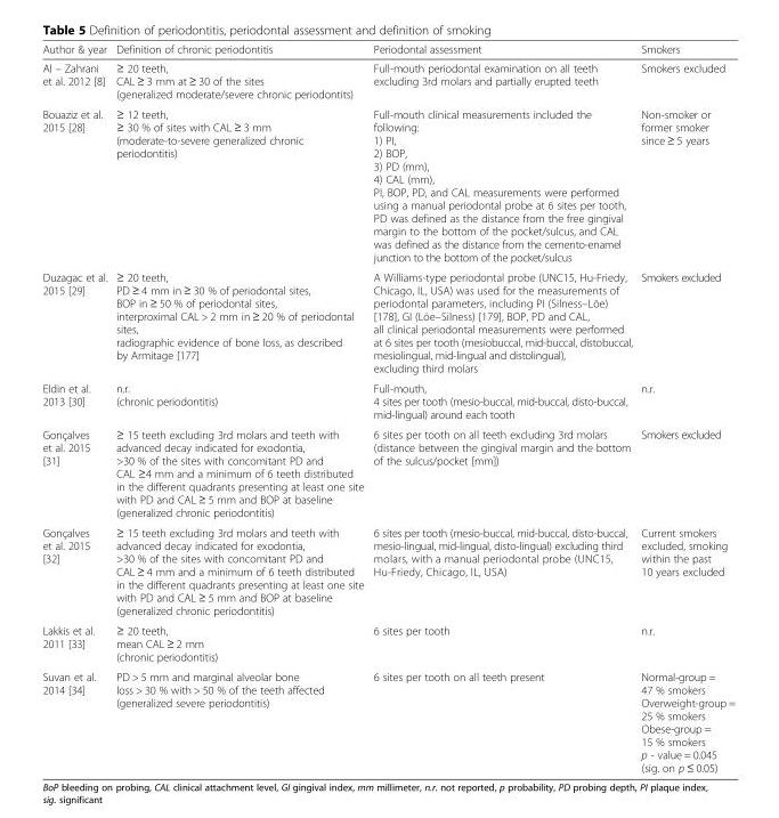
<table><thead><tr><td>Author &amp; year</td><td>Definition of chronic periodontitis</td><td>Periodontal assessment</td><td>Smokers</td></tr></thead><tbody><tr><td>Al – Zahrani et al. 2012 [8]</td><td>≥ 20 teeth, CAL ≥ 3 mm at ≥ 30 of the sites (generalized moderate/severe chronic periodontits)</td><td>Full-mouth periodontal examination on all teeth excluding 3rd molars and partially erupted teeth</td><td>Smokers excluded</td></tr><tr><td>Bouaziz et al. 2015 [28]</td><td>≥ 12 teeth, ≥ 30 % of sites with CAL ≥ 3 mm (moderate-to-severe generalized chronic periodontitis)</td><td>Full-mouth clinical measurements included the following: 1) PI, 2) BOP, 3) PD (mm), 4) CAL (mm), PI, BOP, PD, and CAL measurements were performed using a manual periodontal probe at 6 sites per tooth, PD was defined as the distance from the free gingival margin to the bottom of the pocket/sulcus, and CAL was defined as the distance from the cemento-enamel junction to the bottom of the pocket/sulcus</td><td>Non-smoker or former smoker since ≥ 5 years</td></tr><tr><td>Duzagac et al. 2015 [29]</td><td>≥ 20 teeth, PD ≥ 4 mm in ≥ 30 % of periodontal sites, BOP in ≥ 50 % of periodontal sites, interproximal CAL &gt; 2 mm in ≥ 20 % of periodontal sites, radiographic evidence of bone loss, as described by Armitage [177]</td><td>A Williams-type periodontal probe (UNC15, Hu-Friedy, Chicago, IL, USA) was used for the measurements of periodontal parameters, including PI (Silness–Löe) [178], GI (Löe–Silness) [179], BOP, PD and CAL, all clinical periodontal measurements were performed at 6 sites per tooth (mesiobuccal, mid-buccal, distobuccal, mesiolingual, mid-lingual and distolingual), excluding third molars</td><td>Smokers excluded</td></tr><tr><td>Eldin et al. 2013 [30]</td><td>n.r. (chronic periodontitis)</td><td>Full-mouth, 4 sites per tooth (mesio-buccal, mid-buccal, disto-buccal, mid-lingual) around each tooth</td><td>n.r.</td></tr><tr><td>Gonçalves et al. 2015 [31]</td><td>≥ 15 teeth excluding 3rd molars and teeth with advanced decay indicated for exodontia, &gt;30 % of the sites with concomitant PD and CAL ≥4 mm and a minimum of 6 teeth distributed in the different quadrants presenting at least one site with PD and CAL ≥ 5 mm and BOP at baseline (generalized chronic periodontitis)</td><td>6 sites per tooth on all teeth excluding 3rd molars (distance between the gingival margin and the bottom of the sulcus/pocket [mm])</td><td>Smokers excluded</td></tr><tr><td>Gonçalves et al. 2015 [32]</td><td>≥ 15 teeth excluding 3rd molars and teeth with advanced decay indicated for exodontia, &gt;30 % of the sites with concomitant PD and CAL ≥ 4 mm and a minimum of 6 teeth distributed in the different quadrants presenting at least one site with PD and CAL ≥ 5 mm and BOP at baseline (generalized chronic periodontitis)</td><td>6 sites per tooth (mesio-buccal, mid-buccal, disto-buccal, mesio-lingual, mid-lingual, disto-lingual) excluding third molars, with a manual periodontal probe (UNC15, Hu-Friedy, Chicago, IL, USA)</td><td>Current smokers excluded, smoking within the past 10 years excluded</td></tr><tr><td>Lakkis et al. 2011 [33]</td><td>≥ 20 teeth, mean CAL ≥ 2 mm (chronic periodontitis)</td><td>6 sites per tooth</td><td>n.r.</td></tr><tr><td>Suvan et al. 2014 [34]</td><td>PD &gt; 5 mm and marginal alveolar bone loss &gt; 30 % with &gt; 50 % of the teeth affected (generalized severe periodontitis)</td><td>6 sites per tooth on all teeth present</td><td>Normal-group = 47 % smokers Overweight-group = 25 % smokers Obese-group = 15 % smokers p - value = 0.045 (sig. on p ≤ 0.05)</td></tr></tbody></table>